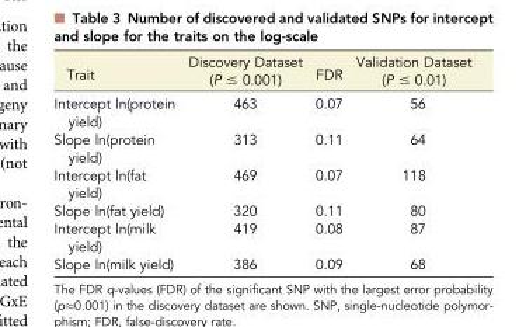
<table><thead><tr><td>Trait</td><td>Discovery Dataset (P ≤ 0.001)</td><td>FDR</td><td>Validation Dataset (P ≤ 0.01)</td></tr></thead><tbody><tr><td>Intercept ln(protein yield)</td><td>463</td><td>0.07</td><td>56</td></tr><tr><td>Slope ln(protein yield)</td><td>313</td><td>0.11</td><td>64</td></tr><tr><td>Intercept ln(fat yield)</td><td>469</td><td>0.07</td><td>118</td></tr><tr><td>Slope ln(fat yield)</td><td>320</td><td>0.11</td><td>80</td></tr><tr><td>Intercept ln(milk yield)</td><td>419</td><td>0.08</td><td>87</td></tr><tr><td>Slope ln(milk yield)</td><td>386</td><td>0.09</td><td>68</td></tr></tbody></table>